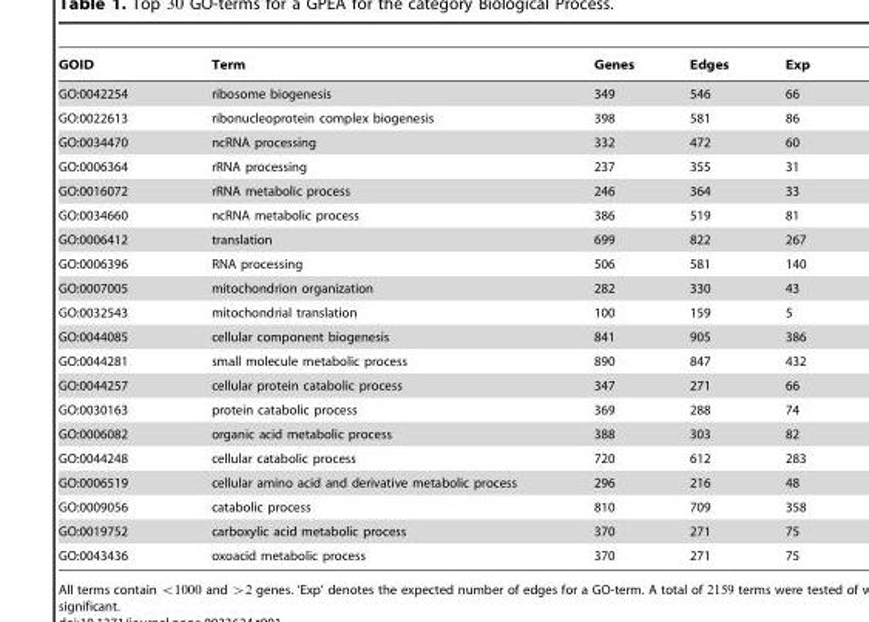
<table><thead><tr><td>GOID</td><td>Term</td><td>Genes</td><td>Edges</td><td>Exp</td></tr></thead><tbody><tr><td>GO:0042254</td><td>ribosome biogenesis</td><td>349</td><td>546</td><td>66</td></tr><tr><td>GO:0022613</td><td>ribonucleoprotein complex biogenesis</td><td>398</td><td>581</td><td>86</td></tr><tr><td>GO:0034470</td><td>ncRNA processing</td><td>332</td><td>472</td><td>60</td></tr><tr><td>GO:0006364</td><td>rRNA processing</td><td>237</td><td>355</td><td>31</td></tr><tr><td>GO:0016072</td><td>rRNA metabolic process</td><td>246</td><td>364</td><td>33</td></tr><tr><td>GO:0034660</td><td>ncRNA metabolic process</td><td>386</td><td>519</td><td>81</td></tr><tr><td>GO:0006412</td><td>translation</td><td>699</td><td>822</td><td>267</td></tr><tr><td>GO:0006396</td><td>RNA processing</td><td>506</td><td>581</td><td>140</td></tr><tr><td>GO:0007005</td><td>mitochondrion organization</td><td>282</td><td>330</td><td>43</td></tr><tr><td>GO:0032543</td><td>mitochondrial translation</td><td>100</td><td>159</td><td>5</td></tr><tr><td>GO:0044085</td><td>cellular component biogenesis</td><td>841</td><td>905</td><td>386</td></tr><tr><td>GO:0044281</td><td>small molecule metabolic process</td><td>890</td><td>847</td><td>432</td></tr><tr><td>GO:0044257</td><td>cellular protein catabolic process</td><td>347</td><td>271</td><td>66</td></tr><tr><td>GO:0030163</td><td>protein catabolic process</td><td>369</td><td>288</td><td>74</td></tr><tr><td>GO:0006082</td><td>organic acid metabolic process</td><td>388</td><td>303</td><td>82</td></tr><tr><td>GO:0044248</td><td>cellular catabolic process</td><td>720</td><td>612</td><td>283</td></tr><tr><td>GO:0006519</td><td>cellular amino acid and derivative metabolic process</td><td>296</td><td>216</td><td>48</td></tr><tr><td>GO:0009056</td><td>catabolic process</td><td>810</td><td>709</td><td>358</td></tr><tr><td>GO:0019752</td><td>carboxylic acid metabolic process</td><td>370</td><td>271</td><td>75</td></tr><tr><td>GO:0043436</td><td>oxoacid metabolic process</td><td>370</td><td>271</td><td>75</td></tr></tbody></table>